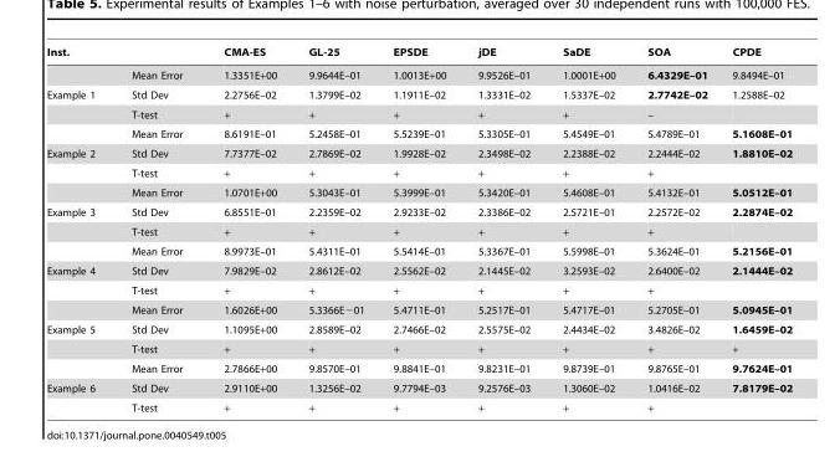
<table><thead><tr><td>Inst.</td><td></td><td>CMA-ES</td><td>GL-25</td><td>EPSDE</td><td>jDE</td><td>SaDE</td><td>SOA</td><td>CPDE</td></tr></thead><tbody><tr><td></td><td>Mean Error</td><td>1.3351E+00</td><td>9.9644E–01</td><td>1.0013E+00</td><td>9.9526E–01</td><td>1.0001E+00</td><td>6.4329E–01</td><td>9.8494E–01</td></tr><tr><td rowspan="3">Example 1</td><td>Std Dev</td><td>2.2756E–02</td><td>1.3799E–02</td><td>1.1911E–02</td><td>1.3331E–02</td><td>1.5337E–02</td><td>2.7742E–02</td><td>1.2588E–02</td></tr><tr><td>T-test</td><td>+</td><td>+</td><td>+</td><td>+</td><td>+</td><td>–</td><td></td></tr><tr><td>Mean Error</td><td>8.6191E–01</td><td>5.2458E–01</td><td>5.5239E–01</td><td>5.3305E–01</td><td>5.4549E–01</td><td>5.4789E–01</td><td>5.1608E–01</td></tr><tr><td rowspan="3">Example 2</td><td>Std Dev</td><td>7.7377E–02</td><td>2.7869E–02</td><td>1.9928E–02</td><td>2.3498E–02</td><td>2.2388E–02</td><td>2.2444E–02</td><td>1.8810E–02</td></tr><tr><td>T-test</td><td>+</td><td>+</td><td>+</td><td>+</td><td>+</td><td>+</td><td></td></tr><tr><td>Mean Error</td><td>1.0701E+00</td><td>5.3043E–01</td><td>5.3999E–01</td><td>5.3420E–01</td><td>5.4608E–01</td><td>5.4132E–01</td><td>5.0512E–01</td></tr><tr><td rowspan="3">Example 3</td><td>Std Dev</td><td>6.8551E–01</td><td>2.2359E–02</td><td>2.9233E–02</td><td>2.3386E–02</td><td>2.5721E–01</td><td>2.2572E–02</td><td>2.2874E–02</td></tr><tr><td>T-test</td><td>+</td><td>+</td><td>+</td><td>+</td><td>+</td><td>+</td><td></td></tr><tr><td>Mean Error</td><td>8.9973E–01</td><td>5.4311E–01</td><td>5.5414E–01</td><td>5.3367E–01</td><td>5.5998E–01</td><td>5.3624E–01</td><td>5.2156E–01</td></tr><tr><td rowspan="3">Example 4</td><td>Std Dev</td><td>7.9829E–02</td><td>2.8612E–02</td><td>2.5562E–02</td><td>2.1445E–02</td><td>3.2593E–02</td><td>2.6400E–02</td><td>2.1444E–02</td></tr><tr><td>T-test</td><td>+</td><td>+</td><td>+</td><td>+</td><td>+</td><td>+</td><td></td></tr><tr><td>Mean Error</td><td>1.6026E+00</td><td>5.3366E−01</td><td>5.4711E–01</td><td>5.2517E–01</td><td>5.4717E–01</td><td>5.2705E–01</td><td>5.0945E–01</td></tr><tr><td rowspan="3">Example 5</td><td>Std Dev</td><td>1.1095E+00</td><td>2.8589E–02</td><td>2.7466E–02</td><td>2.5575E–02</td><td>2.4434E–02</td><td>3.4826E–02</td><td>1.6459E–02</td></tr><tr><td>T-test</td><td>+</td><td>+</td><td>+</td><td>+</td><td>+</td><td>+</td><td>+</td></tr><tr><td>Mean Error</td><td>2.7866E+00</td><td>9.8570E–01</td><td>9.8841E–01</td><td>9.8231E–01</td><td>9.8739E–01</td><td>9.8765E–01</td><td>9.7624E–01</td></tr><tr><td rowspan="2">Example 6</td><td>Std Dev</td><td>2.9110E+00</td><td>1.3256E–02</td><td>9.7794E–03</td><td>9.2576E–03</td><td>1.3060E–02</td><td>1.0416E–02</td><td>7.8179E–02</td></tr><tr><td>T-test</td><td>+</td><td>+</td><td>+</td><td>+</td><td>+</td><td>+</td><td></td></tr></tbody></table>